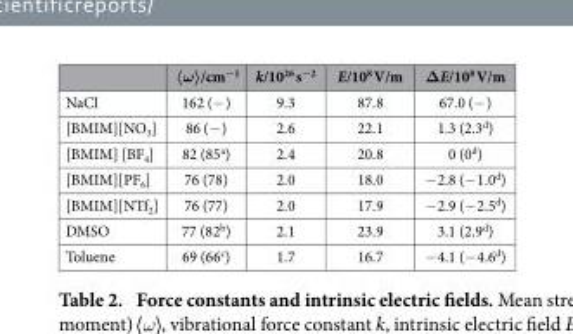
<table><thead><tr><td></td><td>〈ω〉/cm<sup>−1</sup></td><td>k/10<sup>26</sup> s<sup>−2</sup></td><td>E/10<sup>8</sup> V/m</td><td>ΔE/10<sup>8</sup> V/m</td></tr></thead><tbody><tr><td>NaCl</td><td>162 (− )</td><td>9.3</td><td>87.8</td><td>67.0 (− )</td></tr><tr><td>[BMIM][NO<sub>3</sub>]</td><td>86 (− )</td><td>2.6</td><td>22.1</td><td>1.3 (2.3<sup>d</sup>)</td></tr><tr><td>[BMIM] [BF<sub>4</sub>]</td><td>82 (85<sup>a</sup>)</td><td>2.4</td><td>20.8</td><td>0 (0<sup>d</sup>)</td></tr><tr><td>[BMIM][PF<sub>6</sub>]</td><td>76 (78)</td><td>2.0</td><td>18.0</td><td>− 2.8 (− 1.0<sup>d</sup>)</td></tr><tr><td>[BMIM][NTf<sub>2</sub>]</td><td>76 (77)</td><td>2.0</td><td>17.9</td><td>− 2.9 (− 2.5<sup>d</sup>)</td></tr><tr><td>DMSO</td><td>77 (82<sup>b</sup>)</td><td>2.1</td><td>23.9</td><td>3.1 (2.9<sup>d</sup>)</td></tr><tr><td>Toluene</td><td>69 (66<sup>c</sup>)</td><td>1.7</td><td>16.7</td><td>− 4.1 (− 4.6<sup>d</sup>)</td></tr></tbody></table>